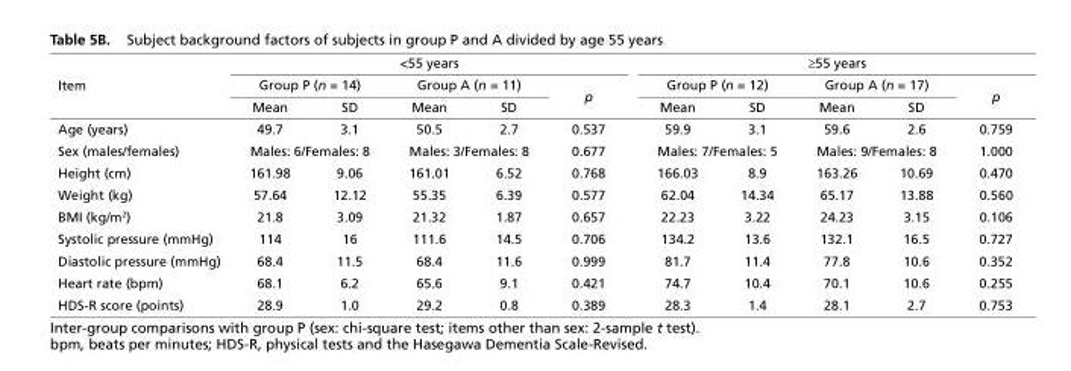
<table><thead><tr><td rowspan="3">Item</td><td colspan="5">&lt;55 years</td><td colspan="5">≥55 years</td></tr><tr><td colspan="2">Group P (n = 14)</td><td colspan="2">Group A (n = 11)</td><td rowspan="2">p</td><td colspan="2">Group P (n = 12)</td><td colspan="2">Group A (n = 17)</td><td rowspan="2">p</td></tr><tr><td>Mean</td><td>SD</td><td>Mean</td><td>SD</td><td>Mean</td><td>SD</td><td>Mean</td><td>SD</td></tr></thead><tbody><tr><td>Age (years)</td><td>49.7</td><td>3.1</td><td>50.5</td><td>2.7</td><td>0.537</td><td>59.9</td><td>3.1</td><td>59.6</td><td>2.6</td><td>0.759</td></tr><tr><td>Sex (males/females)</td><td colspan="2">Males: 6/Females: 8</td><td colspan="2">Males: 3/Females: 8</td><td>0.677</td><td colspan="2">Males: 7/Females: 5</td><td colspan="2">Males: 9/Females: 8</td><td>1.000</td></tr><tr><td>Height (cm)</td><td>161.98</td><td>9.06</td><td>161.01</td><td>6.52</td><td>0.768</td><td>166.03</td><td>8.9</td><td>163.26</td><td>10.69</td><td>0.470</td></tr><tr><td>Weight (kg)</td><td>57.64</td><td>12.12</td><td>55.35</td><td>6.39</td><td>0.577</td><td>62.04</td><td>14.34</td><td>65.17</td><td>13.88</td><td>0.560</td></tr><tr><td>BMI (kg/m<sup>2</sup>)</td><td>21.8</td><td>3.09</td><td>21.32</td><td>1.87</td><td>0.657</td><td>22.23</td><td>3.22</td><td>24.23</td><td>3.15</td><td>0.106</td></tr><tr><td>Systolic pressure (mmHg)</td><td>114</td><td>16</td><td>111.6</td><td>14.5</td><td>0.706</td><td>134.2</td><td>13.6</td><td>132.1</td><td>16.5</td><td>0.727</td></tr><tr><td>Diastolic pressure (mmHg)</td><td>68.4</td><td>11.5</td><td>68.4</td><td>11.6</td><td>0.999</td><td>81.7</td><td>11.4</td><td>77.8</td><td>10.6</td><td>0.352</td></tr><tr><td>Heart rate (bpm)</td><td>68.1</td><td>6.2</td><td>65.6</td><td>9.1</td><td>0.421</td><td>74.7</td><td>10.4</td><td>70.1</td><td>10.6</td><td>0.255</td></tr><tr><td>HDS-R score (points)</td><td>28.9</td><td>1.0</td><td>29.2</td><td>0.8</td><td>0.389</td><td>28.3</td><td>1.4</td><td>28.1</td><td>2.7</td><td>0.753</td></tr></tbody></table>